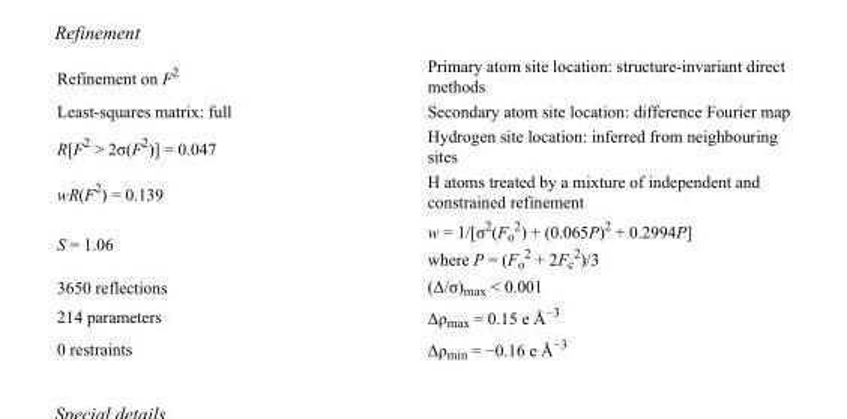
<table><tbody><tr><td>Refinement on F<sup>2</sup></td><td>Primary atom site location: structure-invariant direct methods</td></tr><tr><td>Least-squares matrix: full</td><td>Secondary atom site location: difference Fourier map</td></tr><tr><td>R[F<sup>2</sup> &gt; 2σ(F<sup>2</sup>)] = 0.047</td><td>Hydrogen site location: inferred from neighbouring sites</td></tr><tr><td>wR(F<sup>2</sup>) = 0.139</td><td>H atoms treated by a mixture of independent and constrained refinement</td></tr><tr><td>S = 1.06</td><td>w = 1/[σ<sup>2</sup>(F<sub>o</sub> <sup>2</sup>) + (0.065P)<sup>2</sup> + 0.2994P] where P = (F<sub>o</sub> <sup>2</sup> + 2F<sub>c</sub> <sup>2</sup>)/3</td></tr><tr><td>3650 reflections</td><td>(Δ/σ)<sub>max</sub> &lt; 0.001</td></tr><tr><td>214 parameters</td><td>Δρ<sub>max</sub> = 0.15 e Å<sup>−3</sup></td></tr><tr><td>0 restraints</td><td>Δρ<sub>min</sub> = −0.16 e Å<sup>−3</sup></td></tr></tbody></table>